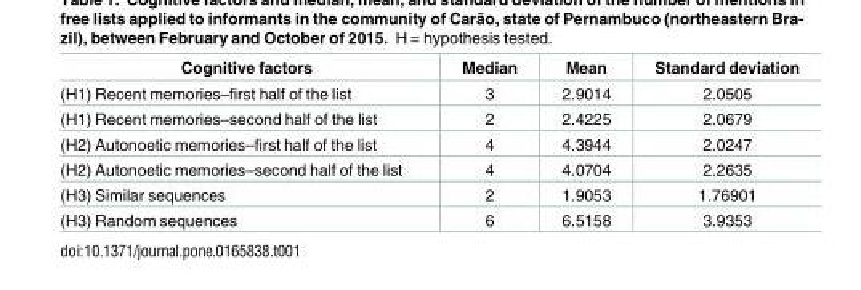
<table><thead><tr><td>Cognitive factors</td><td>Median</td><td>Mean</td><td>Standard deviation</td></tr></thead><tbody><tr><td>(H1) Recent memories–first half of the list</td><td>3</td><td>2.9014</td><td>2.0505</td></tr><tr><td>(H1) Recent memories–second half of the list</td><td>2</td><td>2.4225</td><td>2.0679</td></tr><tr><td>(H2) Autonoetic memories–first half of the list</td><td>4</td><td>4.3944</td><td>2.0247</td></tr><tr><td>(H2) Autonoetic memories–second half of the list</td><td>4</td><td>4.0704</td><td>2.2635</td></tr><tr><td>(H3) Similar sequences</td><td>2</td><td>1.9053</td><td>1.76901</td></tr><tr><td>(H3) Random sequences</td><td>6</td><td>6.5158</td><td>3.9353</td></tr></tbody></table>